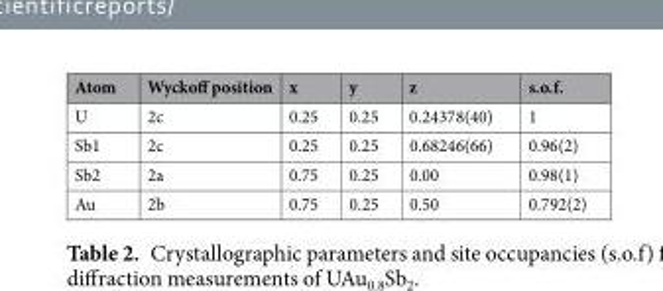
<table><thead><tr><td>Atom</td><td>Wyckoff position</td><td>x</td><td>y</td><td>z</td><td>s.o.f.</td></tr></thead><tbody><tr><td>U</td><td>2c</td><td>0.25</td><td>0.25</td><td>0.24378(40)</td><td>1</td></tr><tr><td>Sb1</td><td>2c</td><td>0.25</td><td>0.25</td><td>0.68246(66)</td><td>0.96(2)</td></tr><tr><td>Sb2</td><td>2a</td><td>0.75</td><td>0.25</td><td>0.00</td><td>0.98(1)</td></tr><tr><td>Au</td><td>2b</td><td>0.75</td><td>0.25</td><td>0.50</td><td>0.792(2)</td></tr></tbody></table>